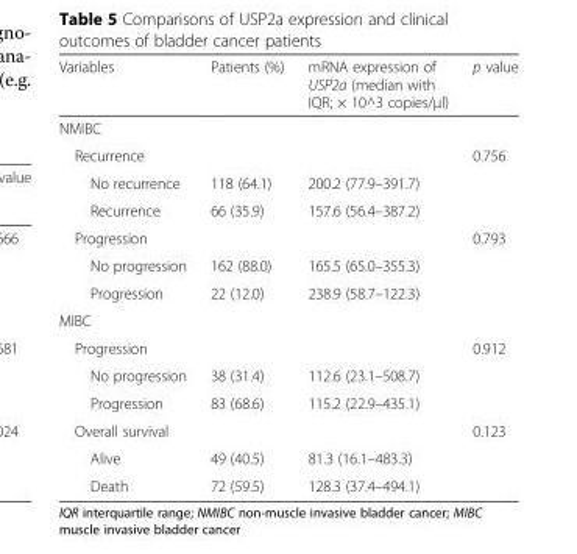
<table><thead><tr><td>Variables</td><td>Patients (%)</td><td>mRNA expression of USP2a (median with IQR; × 10^3 copies/μl)</td><td>p value</td></tr></thead><tbody><tr><td colspan="4">NMIBC</td></tr><tr><td>Recurrence</td><td></td><td></td><td>0.756</td></tr><tr><td>No recurrence</td><td>118 (64.1)</td><td>200.2 (77.9–391.7)</td><td></td></tr><tr><td>Recurrence</td><td>66 (35.9)</td><td>157.6 (56.4–387.2)</td><td></td></tr><tr><td>Progression</td><td></td><td></td><td>0.793</td></tr><tr><td>No progression</td><td>162 (88.0)</td><td>165.5 (65.0–355.3)</td><td></td></tr><tr><td>Progression</td><td>22 (12.0)</td><td>238.9 (58.7–122.3)</td><td></td></tr><tr><td colspan="4">MIBC</td></tr><tr><td>Progression</td><td></td><td></td><td>0.912</td></tr><tr><td>No progression</td><td>38 (31.4)</td><td>112.6 (23.1–508.7)</td><td></td></tr><tr><td>Progression</td><td>83 (68.6)</td><td>115.2 (22.9–435.1)</td><td></td></tr><tr><td>Overall survival</td><td></td><td></td><td>0.123</td></tr><tr><td>Alive</td><td>49 (40.5)</td><td>81.3 (16.1–483.3)</td><td></td></tr><tr><td>Death</td><td>72 (59.5)</td><td>128.3 (37.4–494.1)</td><td></td></tr></tbody></table>